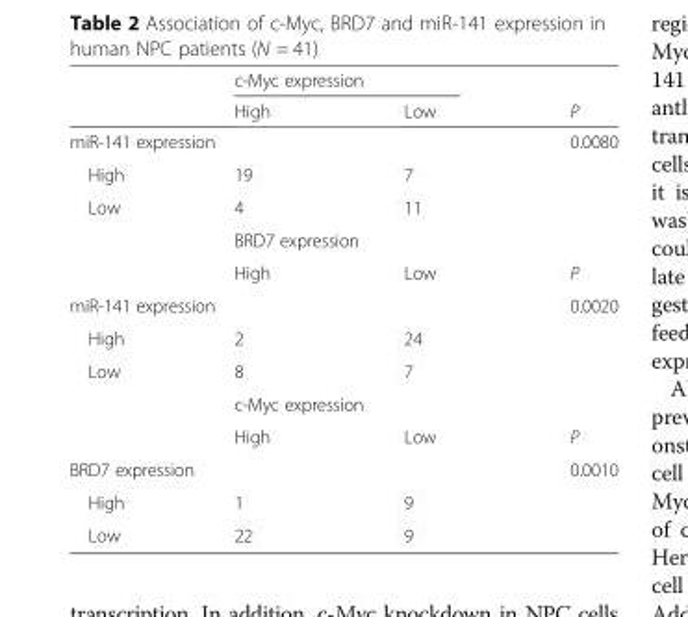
<table><thead><tr><td rowspan="2"></td><td colspan="2">c-Myc expression</td><td rowspan="2">P</td></tr><tr><td>High</td><td>Low</td></tr></thead><tbody><tr><td colspan="3">miR-141 expression</td><td rowspan="3">0.0080</td></tr><tr><td>High</td><td>19</td><td>7</td></tr><tr><td rowspan="3">Low</td><td>4</td><td>11</td></tr><tr><td colspan="2">BRD7 expression</td><td></td></tr><tr><td>High</td><td>Low</td><td>P</td></tr><tr><td colspan="3">miR-141 expression</td><td rowspan="3">0.0020</td></tr><tr><td>High</td><td>2</td><td>24</td></tr><tr><td rowspan="3">Low</td><td>8</td><td>7</td></tr><tr><td colspan="2">c-Myc expression</td><td></td></tr><tr><td>High</td><td>Low</td><td>P</td></tr><tr><td colspan="3">BRD7 expression</td><td rowspan="3">0.0010</td></tr><tr><td>High</td><td>1</td><td>9</td></tr><tr><td>Low</td><td>22</td><td>9</td></tr></tbody></table>